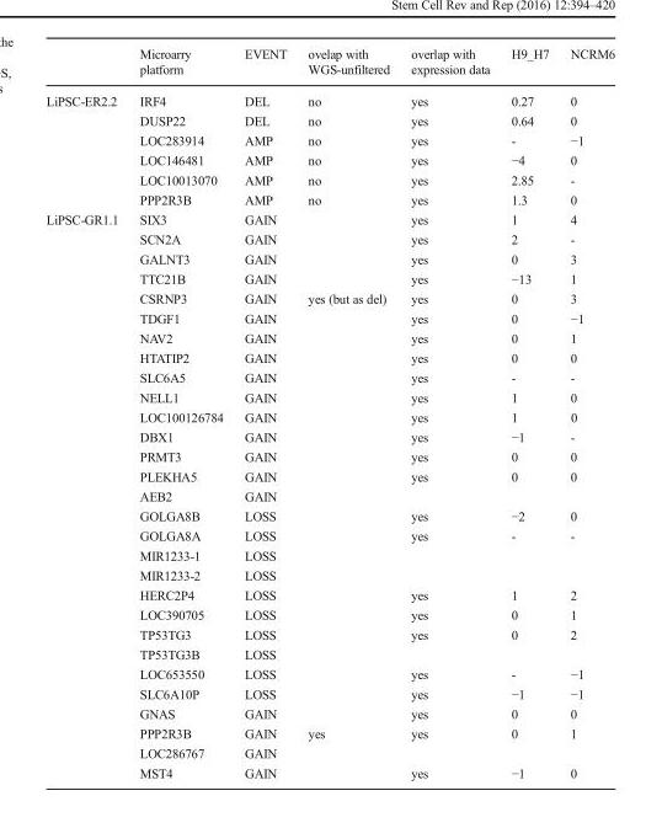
<table><thead><tr><td></td><td>Microarry platform</td><td>EVENT</td><td>ovelap with WGS-unfiltered</td><td>overlap with expression data</td><td>H9_H7</td><td>NCRM6</td></tr></thead><tbody><tr><td rowspan="6">LiPSC-ER2.2</td><td>IRF4</td><td>DEL</td><td>no</td><td>yes</td><td>0.27</td><td>0</td></tr><tr><td>DUSP22</td><td>DEL</td><td>no</td><td>yes</td><td>0.64</td><td>0</td></tr><tr><td>LOC283914</td><td>AMP</td><td>no</td><td>yes</td><td>-</td><td>−1</td></tr><tr><td>LOC146481</td><td>AMP</td><td>no</td><td>yes</td><td>−4</td><td>0</td></tr><tr><td>LOC10013070</td><td>AMP</td><td>no</td><td>yes</td><td>2.85</td><td>-</td></tr><tr><td>PPP2R3B</td><td>AMP</td><td>no</td><td>yes</td><td>1.3</td><td>0</td></tr><tr><td rowspan="29">LiPSC-GR1.1</td><td>SIX3</td><td>GAIN</td><td></td><td>yes</td><td>1</td><td>4</td></tr><tr><td>SCN2A</td><td>GAIN</td><td></td><td>yes</td><td>2</td><td>-</td></tr><tr><td>GALNT3</td><td>GAIN</td><td></td><td>yes</td><td>0</td><td>3</td></tr><tr><td>TTC21B</td><td>GAIN</td><td></td><td>yes</td><td>−13</td><td>1</td></tr><tr><td>CSRNP3</td><td>GAIN</td><td>yes (but as del)</td><td>yes</td><td>0</td><td>3</td></tr><tr><td>TDGF1</td><td>GAIN</td><td></td><td>yes</td><td>0</td><td>−1</td></tr><tr><td>NAV2</td><td>GAIN</td><td></td><td>yes</td><td>0</td><td>1</td></tr><tr><td>HTATIP2</td><td>GAIN</td><td></td><td>yes</td><td>0</td><td>0</td></tr><tr><td>SLC6A5</td><td>GAIN</td><td></td><td>yes</td><td>-</td><td>-</td></tr><tr><td>NELL1</td><td>GAIN</td><td></td><td>yes</td><td>1</td><td>0</td></tr><tr><td>LOC100126784</td><td>GAIN</td><td></td><td>yes</td><td>1</td><td>0</td></tr><tr><td>DBX1</td><td>GAIN</td><td></td><td>yes</td><td>−1</td><td>-</td></tr><tr><td>PRMT3</td><td>GAIN</td><td></td><td>yes</td><td>0</td><td>0</td></tr><tr><td>PLEKHA5</td><td>GAIN</td><td></td><td>yes</td><td>0</td><td>0</td></tr><tr><td>AEB2</td><td>GAIN</td><td></td><td></td><td></td><td></td></tr><tr><td>GOLGA8B</td><td>LOSS</td><td></td><td>yes</td><td>−2</td><td>0</td></tr><tr><td>GOLGA8A</td><td>LOSS</td><td></td><td>yes</td><td>-</td><td>-</td></tr><tr><td>MIR1233-1</td><td>LOSS</td><td></td><td></td><td></td><td></td></tr><tr><td>MIR1233-2</td><td>LOSS</td><td></td><td></td><td></td><td></td></tr><tr><td>HERC2P4</td><td>LOSS</td><td></td><td>yes</td><td>1</td><td>2</td></tr><tr><td>LOC390705</td><td>LOSS</td><td></td><td>yes</td><td>0</td><td>1</td></tr><tr><td>TP53TG3</td><td>LOSS</td><td></td><td>yes</td><td>0</td><td>2</td></tr><tr><td>TP53TG3B</td><td>LOSS</td><td></td><td></td><td></td><td></td></tr><tr><td>LOC653550</td><td>LOSS</td><td></td><td>yes</td><td>-</td><td>−1</td></tr><tr><td>SLC6A10P</td><td>LOSS</td><td></td><td>yes</td><td>−1</td><td>−1</td></tr><tr><td>GNAS</td><td>GAIN</td><td></td><td>yes</td><td>0</td><td>0</td></tr><tr><td>PPP2R3B</td><td>GAIN</td><td>yes</td><td>yes</td><td>0</td><td>1</td></tr><tr><td>LOC286767</td><td>GAIN</td><td></td><td></td><td></td><td></td></tr><tr><td>MST4</td><td>GAIN</td><td></td><td>yes</td><td>−1</td><td>0</td></tr></tbody></table>